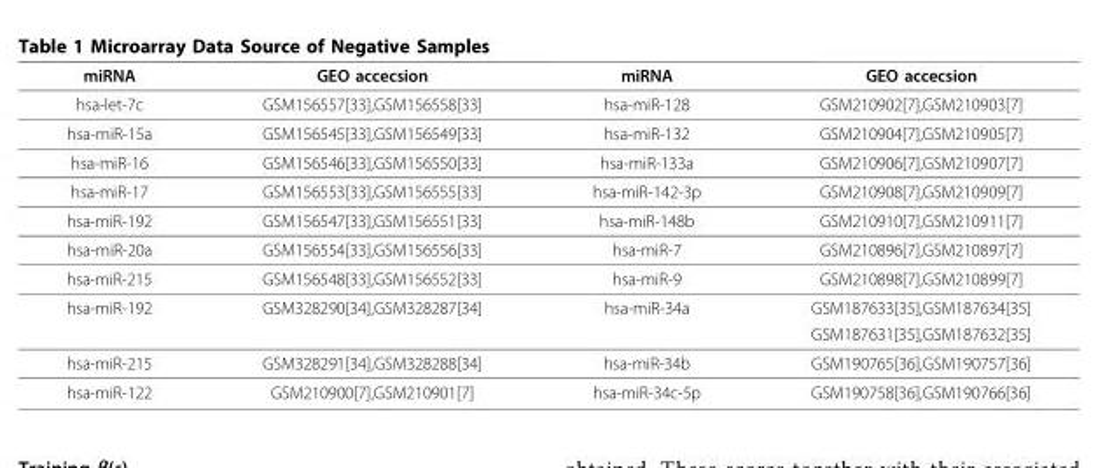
<table><thead><tr><td>miRNA</td><td>GEO accecsion</td><td>miRNA</td><td>GEO accecsion</td></tr></thead><tbody><tr><td>hsa-let-7c</td><td>GSM156557[33],GSM156558[33]</td><td>hsa-miR-128</td><td>GSM210902[7],GSM210903[7]</td></tr><tr><td>hsa-miR-15a</td><td>GSM156545[33],GSM156549[33]</td><td>hsa-miR-132</td><td>GSM210904[7],GSM210905[7]</td></tr><tr><td>hsa-miR-16</td><td>GSM156546[33],GSM156550[33]</td><td>hsa-miR-133a</td><td>GSM210906[7],GSM210907[7]</td></tr><tr><td>hsa-miR-17</td><td>GSM156553[33],GSM156555[33]</td><td>hsa-miR-142-3p</td><td>GSM210908[7],GSM210909[7]</td></tr><tr><td>hsa-miR-192</td><td>GSM156547[33],GSM156551[33]</td><td>hsa-miR-148b</td><td>GSM210910[7],GSM210911[7]</td></tr><tr><td>hsa-miR-20a</td><td>GSM156554[33],GSM156556[33]</td><td>hsa-miR-7</td><td>GSM210896[7],GSM210897[7]</td></tr><tr><td>hsa-miR-215</td><td>GSM156548[33],GSM156552[33]</td><td>hsa-miR-9</td><td>GSM210898[7],GSM210899[7]</td></tr><tr><td rowspan="2">hsa-miR-192</td><td rowspan="2">GSM328290[34],GSM328287[34]</td><td rowspan="2">hsa-miR-34a</td><td>GSM187633[35],GSM187634[35]</td></tr><tr><td>GSM187631[35],GSM187632[35]</td></tr><tr><td>hsa-miR-215</td><td>GSM328291[34],GSM328288[34]</td><td>hsa-miR-34b</td><td>GSM190765[36],GSM190757[36]</td></tr><tr><td>hsa-miR-122</td><td>GSM210900[7],GSM210901[7]</td><td>hsa-miR-34c-5p</td><td>GSM190758[36],GSM190766[36]</td></tr></tbody></table>